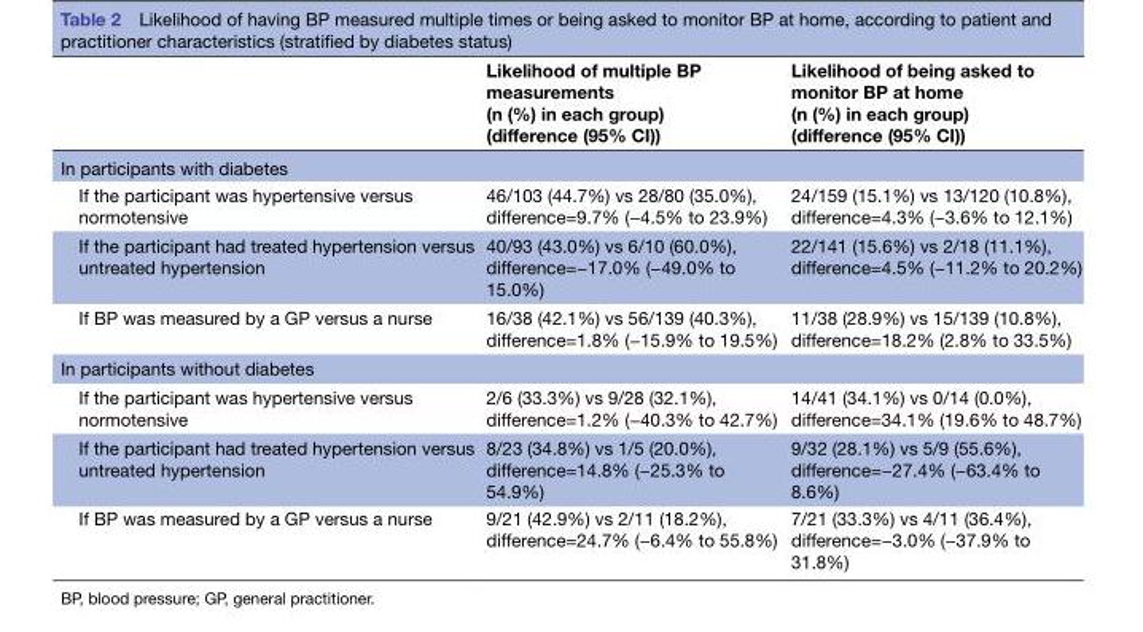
<table><thead><tr><td></td><td>Likelihood of multiple BP measurements (n (%) in each group) (difference (95% CI))</td><td>Likelihood of being asked to monitor BP at home (n (%) in each group) (difference (95% CI))</td></tr></thead><tbody><tr><td colspan="3">In participants with diabetes</td></tr><tr><td>If the participant was hypertensive versus normotensive</td><td>46/103 (44.7%) vs 28/80 (35.0%), difference=9.7% (−4.5% to 23.9%)</td><td>24/159 (15.1%) vs 13/120 (10.8%), difference=4.3% (−3.6% to 12.1%)</td></tr><tr><td>If the participant had treated hypertension versus untreated hypertension</td><td>40/93 (43.0%) vs 6/10 (60.0%), difference=−17.0% (−49.0% to 15.0%)</td><td>22/141 (15.6%) vs 2/18 (11.1%), difference=4.5% (−11.2% to 20.2%)</td></tr><tr><td>If BP was measured by a GP versus a nurse</td><td>16/38 (42.1%) vs 56/139 (40.3%), difference=1.8% (−15.9% to 19.5%)</td><td>11/38 (28.9%) vs 15/139 (10.8%), difference=18.2% (2.8% to 33.5%)</td></tr><tr><td colspan="3">In participants without diabetes</td></tr><tr><td>If the participant was hypertensive versus normotensive</td><td>2/6 (33.3%) vs 9/28 (32.1%), difference=1.2% (−40.3% to 42.7%)</td><td>14/41 (34.1%) vs 0/14 (0.0%), difference=34.1% (19.6% to 48.7%)</td></tr><tr><td>If the participant had treated hypertension versus untreated hypertension</td><td>8/23 (34.8%) vs 1/5 (20.0%), difference=14.8% (−25.3% to 54.9%)</td><td>9/32 (28.1%) vs 5/9 (55.6%), difference=−27.4% (−63.4% to 8.6%)</td></tr><tr><td>If BP was measured by a GP versus a nurse</td><td>9/21 (42.9%) vs 2/11 (18.2%), difference=24.7% (−6.4% to 55.8%)</td><td>7/21 (33.3%) vs 4/11 (36.4%), difference=−3.0% (−37.9% to 31.8%)</td></tr></tbody></table>